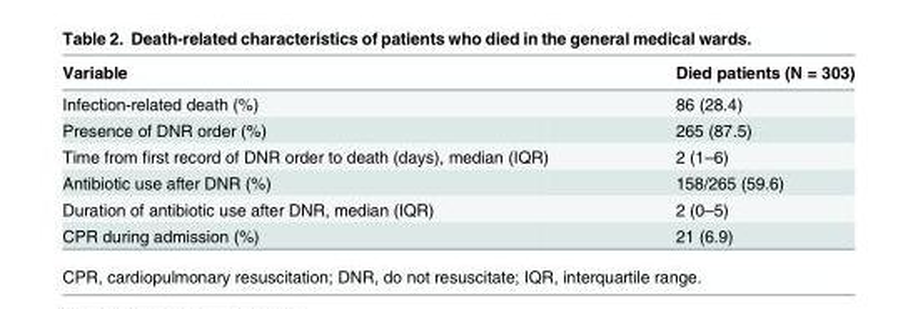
<table><thead><tr><td>Variable</td><td>Died patients (N = 303)</td></tr></thead><tbody><tr><td>Infection-related death (%)</td><td>86 (28.4)</td></tr><tr><td>Presence of DNR order (%)</td><td>265 (87.5)</td></tr><tr><td>Time from first record of DNR order to death (days), median (IQR)</td><td>2 (1–6)</td></tr><tr><td>Antibiotic use after DNR (%)</td><td>158/265 (59.6)</td></tr><tr><td>Duration of antibiotic use after DNR, median (IQR)</td><td>2 (0–5)</td></tr><tr><td>CPR during admission (%)</td><td>21 (6.9)</td></tr></tbody></table>